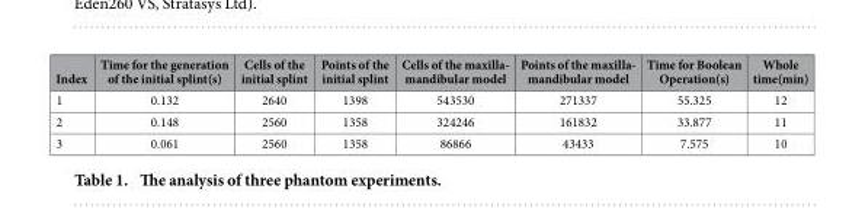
<table><thead><tr><td>Index</td><td>Time for the generation of the initial splint(s)</td><td>Cells of the initial splint</td><td>Points of the initial splint</td><td>Cells of the maxilla- mandibular model</td><td>Points of the maxilla- mandibular model</td><td>Time for Boolean Operation(s)</td><td>Whole time(min)</td></tr></thead><tbody><tr><td>1</td><td>0.132</td><td>2640</td><td>1398</td><td>543530</td><td>271337</td><td>55.325</td><td>12</td></tr><tr><td>2</td><td>0.148</td><td>2560</td><td>1358</td><td>324246</td><td>161832</td><td>33.877</td><td>11</td></tr><tr><td>3</td><td>0.061</td><td>2560</td><td>1358</td><td>86866</td><td>43433</td><td>7.575</td><td>10</td></tr></tbody></table>